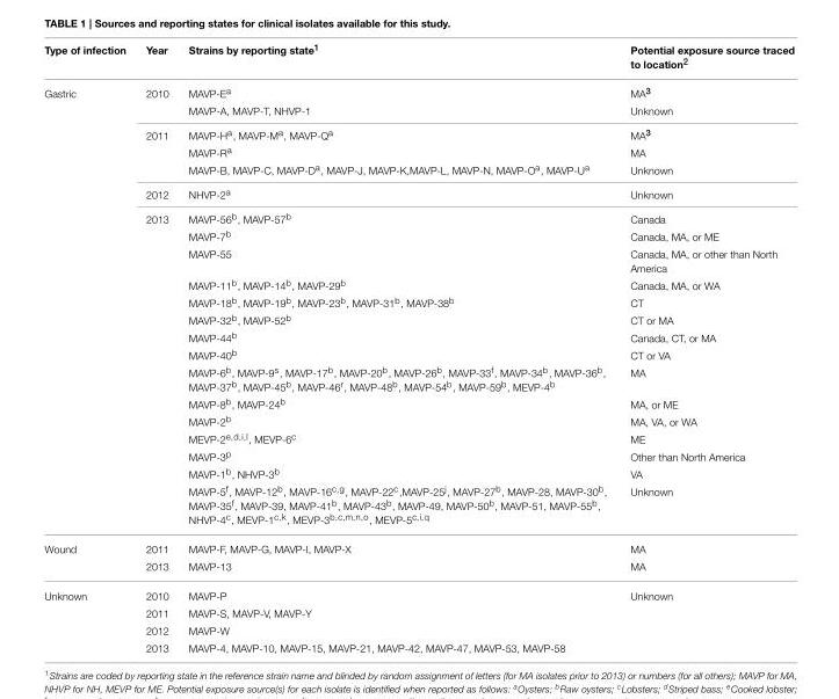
<table><thead><tr><td>Type of infection</td><td>Year</td><td>Strains by reporting state<sup>1</sup></td><td>Potential exposure source traced to location<sup>2</sup></td></tr></thead><tbody><tr><td rowspan="21">Gastric</td><td>2010</td><td>MAVP-E<sup>a</sup></td><td>MA<sup>3</sup></td></tr><tr><td></td><td>MAVP-A, MAVP-T, NHVP-1</td><td>Unknown</td></tr><tr><td>2011</td><td>MAVP-H<sup>a</sup>, MAVP-M<sup>a</sup>, MAVP-Q<sup>a</sup></td><td>MA<sup>3</sup></td></tr><tr><td></td><td>MAVP-R<sup>a</sup></td><td>MA</td></tr><tr><td></td><td>MAVP-B, MAVP-C, MAVP-D<sup>a</sup>, MAVP-J, MAVP-K,MAVP-L, MAVP-N, MAVP-O<sup>a</sup>, MAVP-U<sup>a</sup></td><td>Unknown</td></tr><tr><td>2012</td><td>NHVP-2<sup>a</sup></td><td>Unknown</td></tr><tr><td>2013</td><td>MAVP-56<sup>b</sup>, MAVP-57<sup>b</sup></td><td>Canada</td></tr><tr><td></td><td>MAVP-7<sup>b</sup></td><td>Canada, MA, or ME</td></tr><tr><td></td><td>MAVP-55</td><td>Canada, MA, or other than North America</td></tr><tr><td></td><td>MAVP-11<sup>b</sup>, MAVP-14<sup>b</sup>, MAVP-29<sup>b</sup></td><td>Canada, MA, or WA</td></tr><tr><td></td><td>MAVP-18<sup>b</sup>, MAVP-19<sup>b</sup>, MAVP-23<sup>b</sup>, MAVP-31<sup>b</sup>, MAVP-38<sup>b</sup></td><td>CT</td></tr><tr><td></td><td>MAVP-32<sup>b</sup>, MAVP-52<sup>b</sup></td><td>CT or MA</td></tr><tr><td></td><td>MAVP-44<sup>b</sup></td><td>Canada, CT, or MA</td></tr><tr><td></td><td>MAVP-40<sup>b</sup></td><td>CT or VA</td></tr><tr><td></td><td>MAVP-6<sup>b</sup>, MAVP-9<sup>s</sup>, MAVP-17<sup>b</sup>, MAVP-20<sup>b</sup>, MAVP-26<sup>b</sup>, MAVP-33<sup>f</sup>, MAVP-34<sup>b</sup>, MAVP-36<sup>b</sup>, MAVP-37<sup>b</sup>, MAVP-45<sup>b</sup>, MAVP-46<sup>r</sup>, MAVP-48<sup>b</sup>, MAVP-54<sup>b</sup>, MAVP-59<sup>b</sup>, MEVP-4<sup>b</sup></td><td>MA</td></tr><tr><td></td><td>MAVP-8<sup>b</sup>, MAVP-24<sup>b</sup></td><td>MA, or ME</td></tr><tr><td></td><td>MAVP-2<sup>b</sup></td><td>MA, VA, or WA</td></tr><tr><td></td><td>MEVP-2<sup>e,d,i,l</sup>, MEVP-6<sup>c</sup></td><td>ME</td></tr><tr><td></td><td>MAVP-3<sup>p</sup></td><td>Other than North America</td></tr><tr><td></td><td>MAVP-1<sup>b</sup>, NHVP-3<sup>b</sup></td><td>VA</td></tr><tr><td></td><td>MAVP-5<sup>f</sup>, MAVP-12<sup>b</sup>, MAVP-16<sup>c,g</sup>, MAVP-22<sup>c</sup>,MAVP-25<sup>j</sup>, MAVP-27<sup>b</sup>, MAVP-28, MAVP-30<sup>b</sup>, MAVP-35<sup>f</sup>, MAVP-39, MAVP-41<sup>b</sup>, MAVP-43<sup>b</sup>, MAVP-49, MAVP-50<sup>b</sup>, MAVP-51, MAVP-55<sup>b</sup>, NHVP-4<sup>c</sup>, MEVP-1<sup>c,k</sup>, MEVP-3<sup>b,c,m,n,o</sup>, MEVP-5<sup>c,i,q</sup></td><td>Unknown</td></tr><tr><td rowspan="2">Wound</td><td>2011</td><td>MAVP-F, MAVP-G, MAVP-I, MAVP-X</td><td>MA</td></tr><tr><td>2013</td><td>MAVP-13</td><td>MA</td></tr><tr><td rowspan="4">Unknown</td><td>2010</td><td>MAVP-P</td><td>Unknown</td></tr><tr><td>2011</td><td>MAVP-S, MAVP-V, MAVP-Y</td><td></td></tr><tr><td>2012</td><td>MAVP-W</td><td></td></tr><tr><td>2013</td><td>MAVP-4, MAVP-10, MAVP-15, MAVP-21, MAVP-42, MAVP-47, MAVP-53, MAVP-58</td><td></td></tr></tbody></table>